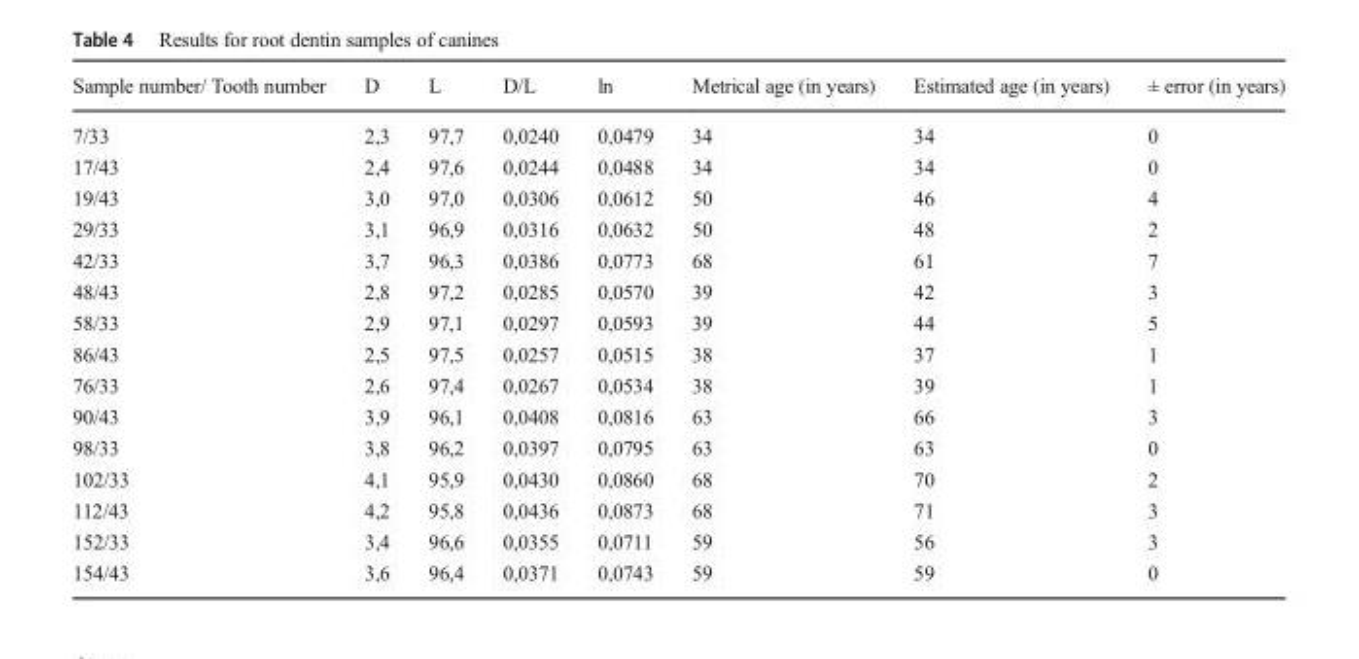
<table><thead><tr><td>Sample number/ Tooth number</td><td>D</td><td>L</td><td>D/L</td><td>ln</td><td>Metrical age (in years)</td><td>Estimated age (in years)</td><td>± error (in years)</td></tr></thead><tbody><tr><td>7/33</td><td>2,3</td><td>97,7</td><td>0,0240</td><td>0,0479</td><td>34</td><td>34</td><td>0</td></tr><tr><td>17/43</td><td>2,4</td><td>97,6</td><td>0,0244</td><td>0,0488</td><td>34</td><td>34</td><td>0</td></tr><tr><td>19/43</td><td>3,0</td><td>97,0</td><td>0,0306</td><td>0,0612</td><td>50</td><td>46</td><td>4</td></tr><tr><td>29/33</td><td>3,1</td><td>96,9</td><td>0,0316</td><td>0,0632</td><td>50</td><td>48</td><td>2</td></tr><tr><td>42/33</td><td>3,7</td><td>96,3</td><td>0,0386</td><td>0,0773</td><td>68</td><td>61</td><td>7</td></tr><tr><td>48/43</td><td>2,8</td><td>97,2</td><td>0,0285</td><td>0,0570</td><td>39</td><td>42</td><td>3</td></tr><tr><td>58/33</td><td>2,9</td><td>97,1</td><td>0,0297</td><td>0,0593</td><td>39</td><td>44</td><td>5</td></tr><tr><td>86/43</td><td>2,5</td><td>97,5</td><td>0,0257</td><td>0,0515</td><td>38</td><td>37</td><td>1</td></tr><tr><td>76/33</td><td>2,6</td><td>97,4</td><td>0,0267</td><td>0,0534</td><td>38</td><td>39</td><td>1</td></tr><tr><td>90/43</td><td>3,9</td><td>96,1</td><td>0,0408</td><td>0,0816</td><td>63</td><td>66</td><td>3</td></tr><tr><td>98/33</td><td>3,8</td><td>96,2</td><td>0,0397</td><td>0,0795</td><td>63</td><td>63</td><td>0</td></tr><tr><td>102/33</td><td>4,1</td><td>95,9</td><td>0,0430</td><td>0,0860</td><td>68</td><td>70</td><td>2</td></tr><tr><td>112/43</td><td>4,2</td><td>95,8</td><td>0,0436</td><td>0,0873</td><td>68</td><td>71</td><td>3</td></tr><tr><td>152/33</td><td>3,4</td><td>96,6</td><td>0,0355</td><td>0,0711</td><td>59</td><td>56</td><td>3</td></tr><tr><td>154/43</td><td>3,6</td><td>96,4</td><td>0,0371</td><td>0,0743</td><td>59</td><td>59</td><td>0</td></tr></tbody></table>